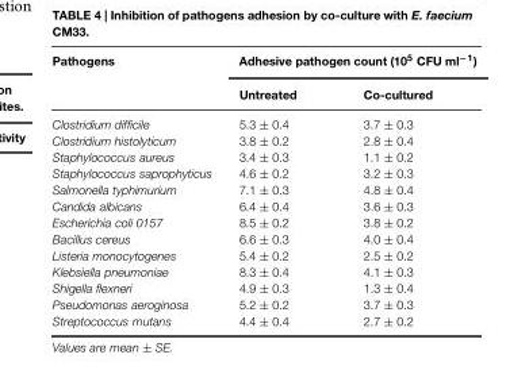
<table><thead><tr><td rowspan="2">Pathogens</td><td colspan="2">Adhesive pathogen count (10<sup>5</sup> CFU ml<sup>−1</sup>)</td></tr><tr><td>Untreated</td><td>Co-cultured</td></tr></thead><tbody><tr><td>Clostridium difficile Clostridium histolyticum Staphylococcus aureus Staphylococcus saprophyticus Salmonella typhimurium Candida albicans Escherichia coli 0157 Bacillus cereus Listeria monocytogenes Klebsiella pneumoniae Shigella flexneri Pseudomonas aeroginosa Streptococcus mutans</td><td>5.3 ± 0.4 3.8 ± 0.2 3.4 ± 0.3 4.6 ± 0.2 7.1 ± 0.3 6.4 ± 0.4 8.5 ± 0.2 6.6 ± 0.3 5.4 ± 0.2 8.3 ± 0.4 4.9 ± 0.3 5.2 ± 0.2 4.4 ± 0.4</td><td>3.7 ± 0.3 2.8 ± 0.4 1.1 ± 0.2 3.2 ± 0.3 4.8 ± 0.4 3.6 ± 0.3 3.8 ± 0.2 4.0 ± 0.4 2.5 ± 0.2 4.1 ± 0.3 1.3 ± 0.4 3.7 ± 0.3 2.7 ± 0.2</td></tr></tbody></table>